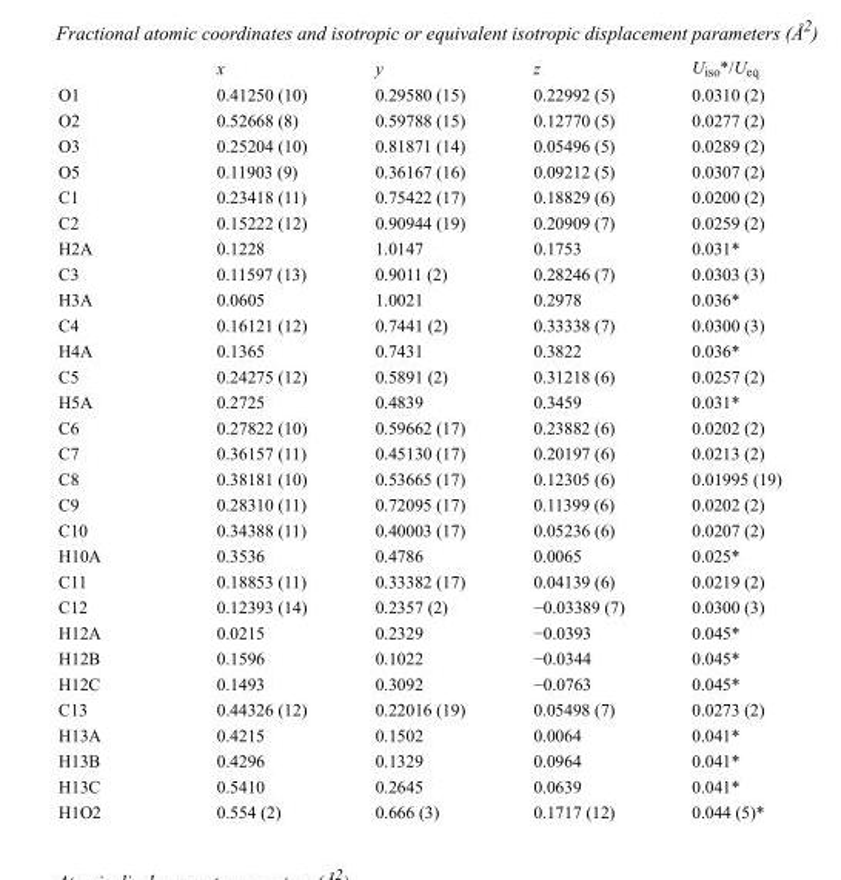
<table><thead><tr><td></td><td>x</td><td>y</td><td>z</td><td>U<sub>iso</sub>*/U<sub>eq</sub></td></tr></thead><tbody><tr><td>O1</td><td>0.41250 (10)</td><td>0.29580 (15)</td><td>0.22992 (5)</td><td>0.0310 (2)</td></tr><tr><td>O2</td><td>0.52668 (8)</td><td>0.59788 (15)</td><td>0.12770 (5)</td><td>0.0277 (2)</td></tr><tr><td>O3</td><td>0.25204 (10)</td><td>0.81871 (14)</td><td>0.05496 (5)</td><td>0.0289 (2)</td></tr><tr><td>O5</td><td>0.11903 (9)</td><td>0.36167 (16)</td><td>0.09212 (5)</td><td>0.0307 (2)</td></tr><tr><td>C1</td><td>0.23418 (11)</td><td>0.75422 (17)</td><td>0.18829 (6)</td><td>0.0200 (2)</td></tr><tr><td>C2</td><td>0.15222 (12)</td><td>0.90944 (19)</td><td>0.20909 (7)</td><td>0.0259 (2)</td></tr><tr><td>H2A</td><td>0.1228</td><td>1.0147</td><td>0.1753</td><td>0.031*</td></tr><tr><td>C3</td><td>0.11597 (13)</td><td>0.9011 (2)</td><td>0.28246 (7)</td><td>0.0303 (3)</td></tr><tr><td>H3A</td><td>0.0605</td><td>1.0021</td><td>0.2978</td><td>0.036*</td></tr><tr><td>C4</td><td>0.16121 (12)</td><td>0.7441 (2)</td><td>0.33338 (7)</td><td>0.0300 (3)</td></tr><tr><td>H4A</td><td>0.1365</td><td>0.7431</td><td>0.3822</td><td>0.036*</td></tr><tr><td>C5</td><td>0.24275 (12)</td><td>0.5891 (2)</td><td>0.31218 (6)</td><td>0.0257 (2)</td></tr><tr><td>H5A</td><td>0.2725</td><td>0.4839</td><td>0.3459</td><td>0.031*</td></tr><tr><td>C6</td><td>0.27822 (10)</td><td>0.59662 (17)</td><td>0.23882 (6)</td><td>0.0202 (2)</td></tr><tr><td>C7</td><td>0.36157 (11)</td><td>0.45130 (17)</td><td>0.20197 (6)</td><td>0.0213 (2)</td></tr><tr><td>C8</td><td>0.38181 (10)</td><td>0.53665 (17)</td><td>0.12305 (6)</td><td>0.01995 (19)</td></tr><tr><td>C9</td><td>0.28310 (11)</td><td>0.72095 (17)</td><td>0.11399 (6)</td><td>0.0202 (2)</td></tr><tr><td>C10</td><td>0.34388 (11)</td><td>0.40003 (17)</td><td>0.05236 (6)</td><td>0.0207 (2)</td></tr><tr><td>H10A</td><td>0.3536</td><td>0.4786</td><td>0.0065</td><td>0.025*</td></tr><tr><td>C11</td><td>0.18853 (11)</td><td>0.33382 (17)</td><td>0.04139 (6)</td><td>0.0219 (2)</td></tr><tr><td>C12</td><td>0.12393 (14)</td><td>0.2357 (2)</td><td>−0.03389 (7)</td><td>0.0300 (3)</td></tr><tr><td>H12A</td><td>0.0215</td><td>0.2329</td><td>−0.0393</td><td>0.045*</td></tr><tr><td>H12B</td><td>0.1596</td><td>0.1022</td><td>−0.0344</td><td>0.045*</td></tr><tr><td>H12C</td><td>0.1493</td><td>0.3092</td><td>−0.0763</td><td>0.045*</td></tr><tr><td>C13</td><td>0.44326 (12)</td><td>0.22016 (19)</td><td>0.05498 (7)</td><td>0.0273 (2)</td></tr><tr><td>H13A</td><td>0.4215</td><td>0.1502</td><td>0.0064</td><td>0.041*</td></tr><tr><td>H13B</td><td>0.4296</td><td>0.1329</td><td>0.0964</td><td>0.041*</td></tr><tr><td>H13C</td><td>0.5410</td><td>0.2645</td><td>0.0639</td><td>0.041*</td></tr><tr><td>H1O2</td><td>0.554 (2)</td><td>0.666 (3)</td><td>0.1717 (12)</td><td>0.044 (5)*</td></tr></tbody></table>